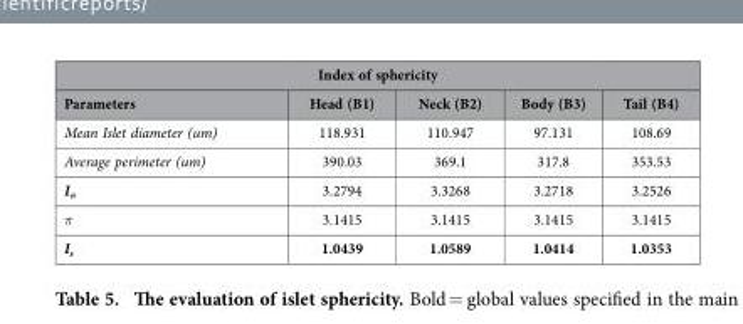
<table><thead><tr><td colspan="5">Index of sphericity</td></tr><tr><td>Parameters</td><td>Head (B1)</td><td>Neck (B2)</td><td>Body (B3)</td><td>Tail (B4)</td></tr></thead><tbody><tr><td>Mean Islet diameter (um)</td><td>118.931</td><td>110.947</td><td>97.131</td><td>108.69</td></tr><tr><td>Average perimeter (um)</td><td>390.03</td><td>369.1</td><td>317.8</td><td>353.53</td></tr><tr><td>I<sub>π</sub></td><td>3.2794</td><td>3.3268</td><td>3.2718</td><td>3.2526</td></tr><tr><td>π</td><td>3.1415</td><td>3.1415</td><td>3.1415</td><td>3.1415</td></tr><tr><td>I<sub>s</sub></td><td>1.0439</td><td>1.0589</td><td>1.0414</td><td>1.0353</td></tr></tbody></table>